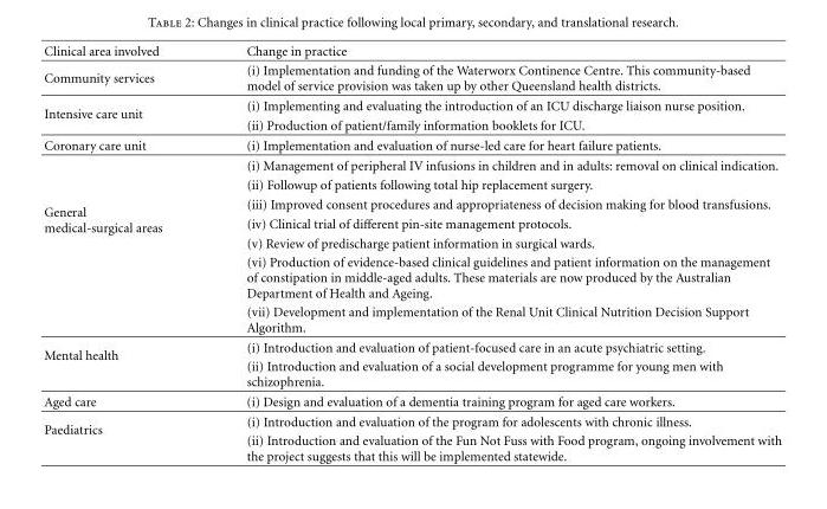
<table><thead><tr><td>Clinical area involved</td><td>Change in practice</td></tr></thead><tbody><tr><td>Community services</td><td>(i) Implementation and funding of the Waterworx Continence Centre. This community-based model of service provision was taken up by other Queensland health districts.</td></tr><tr><td rowspan="2">Intensive care unit</td><td>(i) Implementing and evaluating the introduction of an ICU discharge liaison nurse position.</td></tr><tr><td>(ii) Production of patient/family information booklets for ICU.</td></tr><tr><td>Coronary care unit</td><td>(i) Implementation and evaluation of nurse-led care for heart failure patients.</td></tr><tr><td rowspan="7">General medical-surgical areas</td><td>(i) Management of peripheral IV infusions in children and in adults: removal on clinical indication.</td></tr><tr><td>(ii) Followup of patients following total hip replacement surgery.</td></tr><tr><td>(iii) Improved consent procedures and appropriateness of decision making for blood transfusions.</td></tr><tr><td>(iv) Clinical trial of different pin-site management protocols.</td></tr><tr><td>(v) Review of predischarge patient information in surgical wards.</td></tr><tr><td>(vi) Production of evidence-based clinical guidelines and patient information on the management of constipation in middle-aged adults. These materials are now produced by the Australian Department of Health and Ageing.</td></tr><tr><td>(vii) Development and implementation of the Renal Unit Clinical Nutrition Decision Support Algorithm.</td></tr><tr><td rowspan="2">Mental health</td><td>(i) Introduction and evaluation of patient-focused care in an acute psychiatric setting.</td></tr><tr><td>(ii) Introduction and evaluation of a social development programme for young men with schizophrenia.</td></tr><tr><td>Aged care</td><td>(i) Design and evaluation of a dementia training program for aged care workers.</td></tr><tr><td rowspan="2">Paediatrics</td><td>(i) Introduction and evaluation of the program for adolescents with chronic illness.</td></tr><tr><td>(ii) Introduction and evaluation of the Fun Not Fuss with Food program, ongoing involvement with the project suggests that this will be implemented statewide.</td></tr></tbody></table>